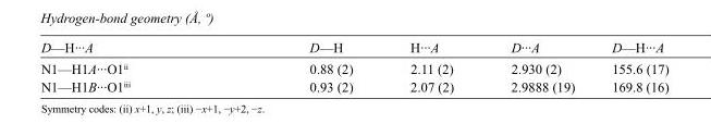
<table><tbody><tr><td>D—H···A</td><td>D—H</td><td>H···A</td><td>D···A</td><td>D—H···A</td></tr><tr><td>N1—H1A···O1<sup>ii</sup></td><td>0.88 (2)</td><td>2.11 (2)</td><td>2.930 (2)</td><td>155.6 (17)</td></tr><tr><td>N1—H1B···O1<sup>iii</sup></td><td>0.93 (2)</td><td>2.07 (2)</td><td>2.9888 (19)</td><td>169.8 (16)</td></tr></tbody></table>